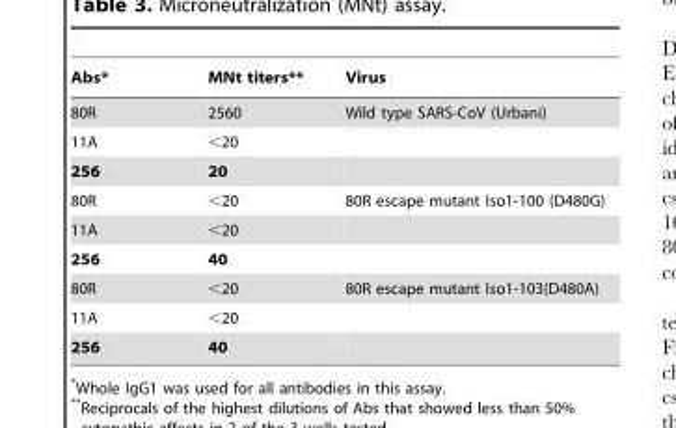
<table><thead><tr><td>Abs*</td><td>MNt titers**</td><td>Virus</td></tr></thead><tbody><tr><td>80R</td><td>2560</td><td>Wild type SARS-CoV (Urbani)</td></tr><tr><td>11A</td><td>&lt;20</td><td></td></tr><tr><td>256</td><td>20</td><td></td></tr><tr><td>80R</td><td>&lt;20</td><td>80R escape mutant Iso1-100 (D480G)</td></tr><tr><td>11A</td><td>&lt;20</td><td></td></tr><tr><td>256</td><td>40</td><td></td></tr><tr><td>80R</td><td>&lt;20</td><td>80R escape mutant Iso1-103(D480A)</td></tr><tr><td>11A</td><td>&lt;20</td><td></td></tr><tr><td>256</td><td>40</td><td></td></tr></tbody></table>